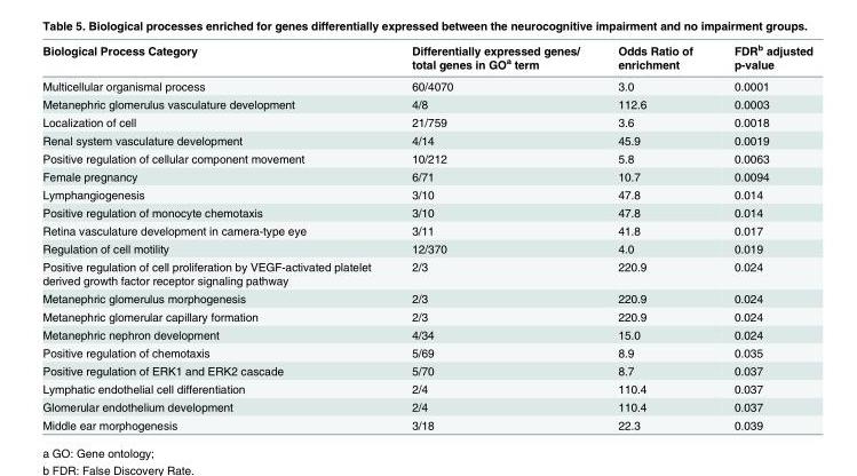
<table><thead><tr><td>Biological Process Category</td><td>Differentially expressed genes/ total genes in GO<sup>a</sup> term</td><td>Odds Ratio of enrichment</td><td>FDR<sup>b</sup> adjusted p-value</td></tr></thead><tbody><tr><td>Multicellular organismal process</td><td>60/4070</td><td>3.0</td><td>0.0001</td></tr><tr><td>Metanephric glomerulus vasculature development</td><td>4/8</td><td>112.6</td><td>0.0003</td></tr><tr><td>Localization of cell</td><td>21/759</td><td>3.6</td><td>0.0018</td></tr><tr><td>Renal system vasculature development</td><td>4/14</td><td>45.9</td><td>0.0019</td></tr><tr><td>Positive regulation of cellular component movement</td><td>10/212</td><td>5.8</td><td>0.0063</td></tr><tr><td>Female pregnancy</td><td>6/71</td><td>10.7</td><td>0.0094</td></tr><tr><td>Lymphangiogenesis</td><td>3/10</td><td>47.8</td><td>0.014</td></tr><tr><td>Positive regulation of monocyte chemotaxis</td><td>3/10</td><td>47.8</td><td>0.014</td></tr><tr><td>Retina vasculature development in camera-type eye</td><td>3/11</td><td>41.8</td><td>0.017</td></tr><tr><td>Regulation of cell motility</td><td>12/370</td><td>4.0</td><td>0.019</td></tr><tr><td>Positive regulation of cell proliferation by VEGF-activated platelet derived growth factor receptor signaling pathway</td><td>2/3</td><td>220.9</td><td>0.024</td></tr><tr><td>Metanephric glomerulus morphogenesis</td><td>2/3</td><td>220.9</td><td>0.024</td></tr><tr><td>Metanephric glomerular capillary formation</td><td>2/3</td><td>220.9</td><td>0.024</td></tr><tr><td>Metanephric nephron development</td><td>4/34</td><td>15.0</td><td>0.024</td></tr><tr><td>Positive regulation of chemotaxis</td><td>5/69</td><td>8.9</td><td>0.035</td></tr><tr><td>Positive regulation of ERK1 and ERK2 cascade</td><td>5/70</td><td>8.7</td><td>0.037</td></tr><tr><td>Lymphatic endothelial cell differentiation</td><td>2/4</td><td>110.4</td><td>0.037</td></tr><tr><td>Glomerular endothelium development</td><td>2/4</td><td>110.4</td><td>0.037</td></tr><tr><td>Middle ear morphogenesis</td><td>3/18</td><td>22.3</td><td>0.039</td></tr></tbody></table>